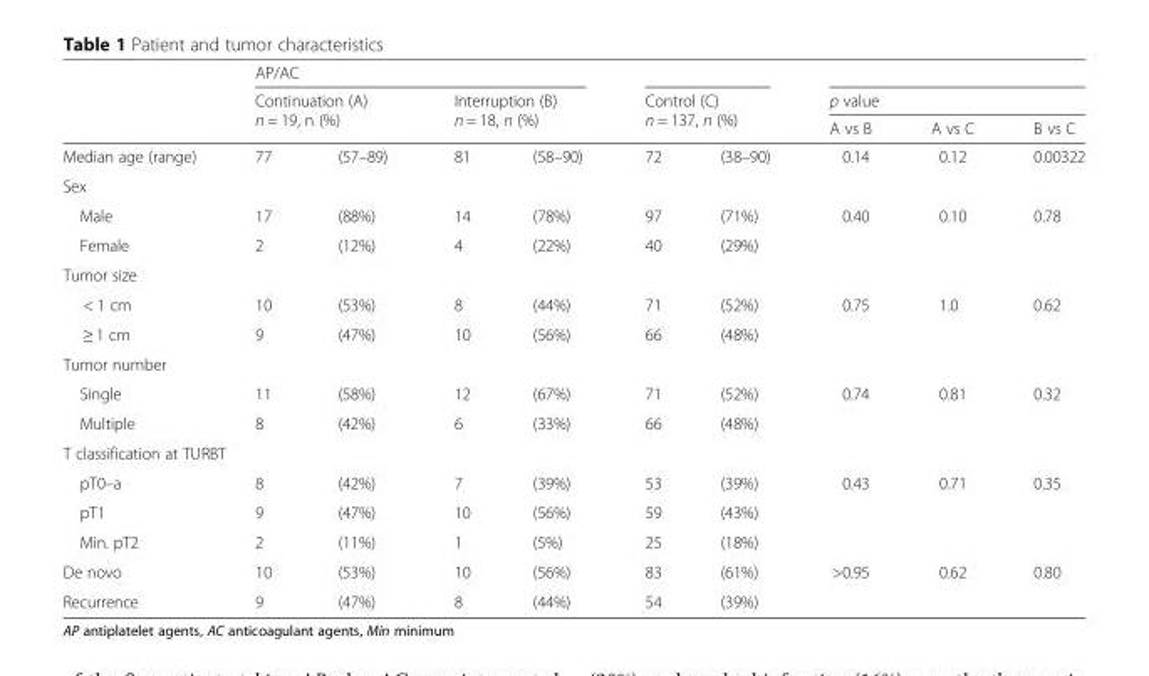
<table><thead><tr><td rowspan="4">Median age (range)</td><td colspan="4">AP/AC</td><td></td><td></td><td></td><td></td><td></td></tr><tr><td rowspan="2" colspan="2">Continuation (A) n = 19, n (%)</td><td rowspan="2" colspan="2">Interruption (B) n = 18, n (%)</td><td rowspan="2" colspan="2">Control (C) n = 137, n (%)</td><td colspan="3">p value</td></tr><tr><td rowspan="2">A vs B 0.14</td><td rowspan="2">A vs C 0.12</td><td rowspan="2">B vs C 0.00322</td></tr><tr><td>77</td><td>(57–89)</td><td>81</td><td>(58–90)</td><td>72</td><td>(38–90)</td></tr></thead><tbody><tr><td colspan="10">Sex</td></tr><tr><td>Male</td><td>17</td><td>(88%)</td><td>14</td><td>(78%)</td><td>97</td><td>(71%)</td><td rowspan="2">0.40</td><td rowspan="2">0.10</td><td rowspan="2">0.78</td></tr><tr><td>Female</td><td>2</td><td>(12%)</td><td>4</td><td>(22%)</td><td>40</td><td>(29%)</td></tr><tr><td colspan="10">Tumor size</td></tr><tr><td>&lt; 1 cm</td><td>10</td><td>(53%)</td><td>8</td><td>(44%)</td><td>71</td><td>(52%)</td><td rowspan="2">0.75</td><td rowspan="2">1.0</td><td rowspan="2">0.62</td></tr><tr><td>≥ 1 cm</td><td>9</td><td>(47%)</td><td>10</td><td>(56%)</td><td>66</td><td>(48%)</td></tr><tr><td colspan="10">Tumor number</td></tr><tr><td>Single</td><td>11</td><td>(58%)</td><td>12</td><td>(67%)</td><td>71</td><td>(52%)</td><td rowspan="2">0.74</td><td rowspan="2">0.81</td><td rowspan="2">0.32</td></tr><tr><td>Multiple</td><td>8</td><td>(42%)</td><td>6</td><td>(33%)</td><td>66</td><td>(48%)</td></tr><tr><td colspan="10">T classification at TURBT</td></tr><tr><td>pT0–a</td><td>8</td><td>(42%)</td><td>7</td><td>(39%)</td><td>53</td><td>(39%)</td><td rowspan="3">0.43</td><td rowspan="3">0.71</td><td rowspan="3">0.35</td></tr><tr><td>pT1</td><td>9</td><td>(47%)</td><td>10</td><td>(56%)</td><td>59</td><td>(43%)</td></tr><tr><td>Min. pT2</td><td>2</td><td>(11%)</td><td>1</td><td>(5%)</td><td>25</td><td>(18%)</td></tr><tr><td>De novo</td><td>10</td><td>(53%)</td><td>10</td><td>(56%)</td><td>83</td><td>(61%)</td><td rowspan="2">&gt;0.95</td><td rowspan="2">0.62</td><td rowspan="2">0.80</td></tr><tr><td>Recurrence</td><td>9</td><td>(47%)</td><td>8</td><td>(44%)</td><td>54</td><td>(39%)</td></tr></tbody></table>